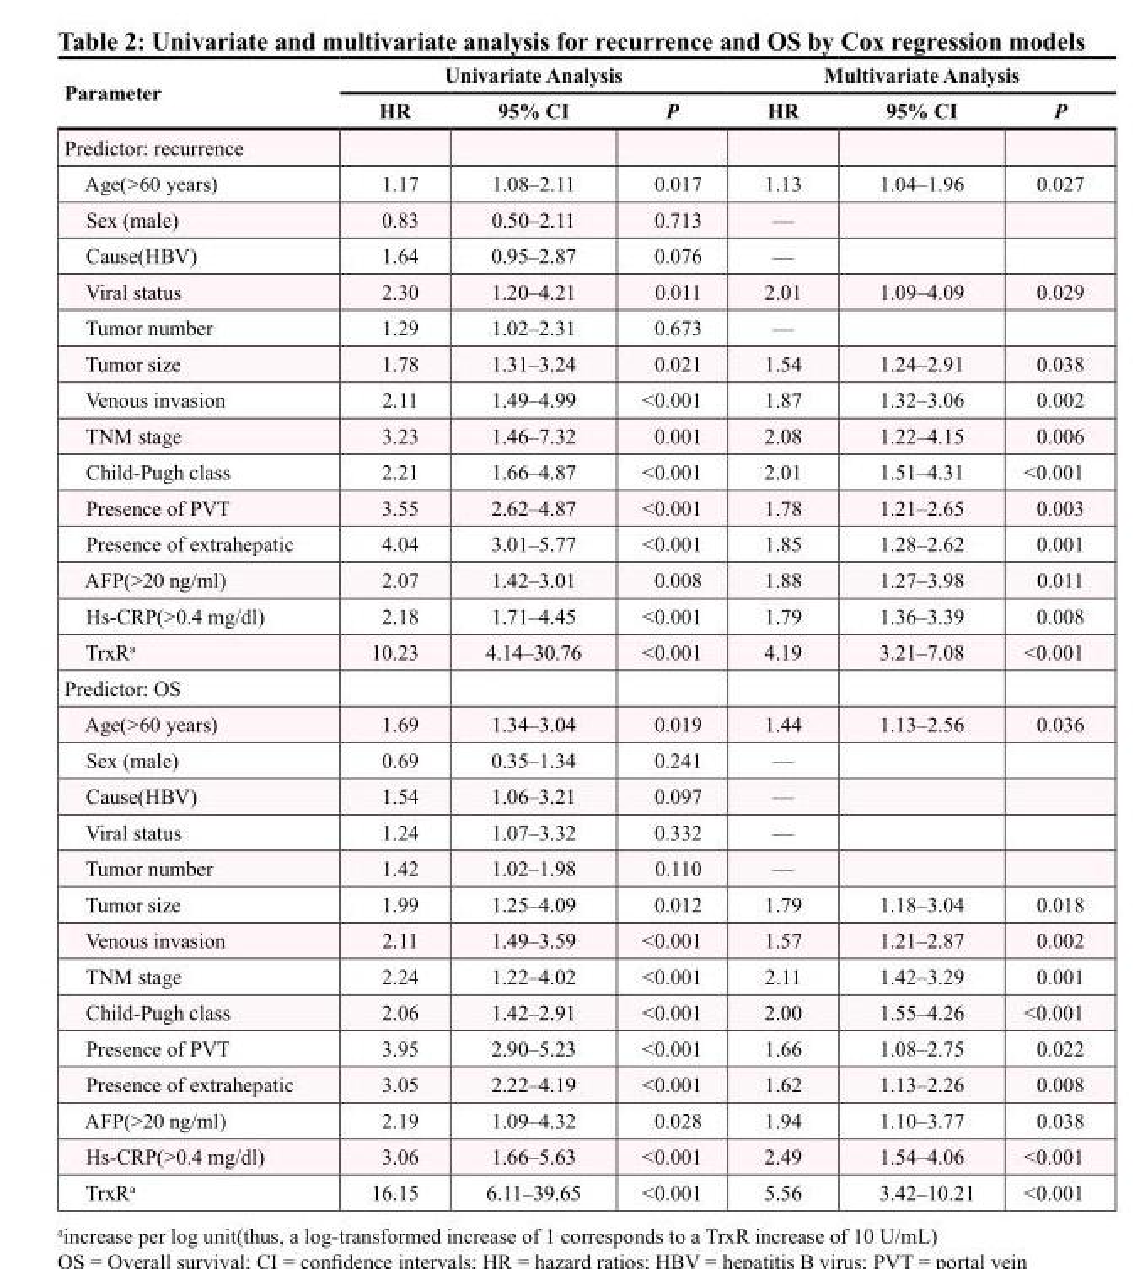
<table><thead><tr><td rowspan="2">Parameter</td><td colspan="3">Univariate Analysis</td><td colspan="3">Multivariate Analysis</td></tr><tr><td>HR</td><td>95% CI</td><td>P</td><td>HR</td><td>95% CI</td><td>P</td></tr></thead><tbody><tr><td colspan="7">Predictor: recurrence</td></tr><tr><td>Age(&gt;60 years)</td><td>1.17</td><td>1.08–2.11</td><td>0.017</td><td>1.13</td><td>1.04–1.96</td><td>0.027</td></tr><tr><td>Sex (male)</td><td>0.83</td><td>0.50–2.11</td><td>0.713</td><td>—</td><td></td><td></td></tr><tr><td>Cause(HBV)</td><td>1.64</td><td>0.95–2.87</td><td>0.076</td><td>—</td><td></td><td></td></tr><tr><td>Viral status</td><td>2.30</td><td>1.20–4.21</td><td>0.011</td><td>2.01</td><td>1.09–4.09</td><td>0.029</td></tr><tr><td>Tumor number</td><td>1.29</td><td>1.02–2.31</td><td>0.673</td><td>—</td><td></td><td></td></tr><tr><td>Tumor size</td><td>1.78</td><td>1.31–3.24</td><td>0.021</td><td>1.54</td><td>1.24–2.91</td><td>0.038</td></tr><tr><td>Venous invasion</td><td>2.11</td><td>1.49–4.99</td><td>&lt;0.001</td><td>1.87</td><td>1.32–3.06</td><td>0.002</td></tr><tr><td>TNM stage</td><td>3.23</td><td>1.46–7.32</td><td>0.001</td><td>2.08</td><td>1.22–4.15</td><td>0.006</td></tr><tr><td>Child-Pugh class</td><td>2.21</td><td>1.66–4.87</td><td>&lt;0.001</td><td>2.01</td><td>1.51–4.31</td><td>&lt;0.001</td></tr><tr><td>Presence of PVT</td><td>3.55</td><td>2.62–4.87</td><td>&lt;0.001</td><td>1.78</td><td>1.21–2.65</td><td>0.003</td></tr><tr><td>Presence of extrahepatic</td><td>4.04</td><td>3.01–5.77</td><td>&lt;0.001</td><td>1.85</td><td>1.28–2.62</td><td>0.001</td></tr><tr><td>AFP(&gt;20 ng/ml)</td><td>2.07</td><td>1.42–3.01</td><td>0.008</td><td>1.88</td><td>1.27–3.98</td><td>0.011</td></tr><tr><td>Hs-CRP(&gt;0.4 mg/dl)</td><td>2.18</td><td>1.71–4.45</td><td>&lt;0.001</td><td>1.79</td><td>1.36–3.39</td><td>0.008</td></tr><tr><td>TrxR<sup>a</sup></td><td>10.23</td><td>4.14–30.76</td><td>&lt;0.001</td><td>4.19</td><td>3.21–7.08</td><td>&lt;0.001</td></tr><tr><td colspan="7">Predictor: OS</td></tr><tr><td>Age(&gt;60 years)</td><td>1.69</td><td>1.34–3.04</td><td>0.019</td><td>1.44</td><td>1.13–2.56</td><td>0.036</td></tr><tr><td>Sex (male)</td><td>0.69</td><td>0.35–1.34</td><td>0.241</td><td>—</td><td></td><td></td></tr><tr><td>Cause(HBV)</td><td>1.54</td><td>1.06–3.21</td><td>0.097</td><td>—</td><td></td><td></td></tr><tr><td>Viral status</td><td>1.24</td><td>1.07–3.32</td><td>0.332</td><td>—</td><td></td><td></td></tr><tr><td>Tumor number</td><td>1.42</td><td>1.02–1.98</td><td>0.110</td><td>—</td><td></td><td></td></tr><tr><td>Tumor size</td><td>1.99</td><td>1.25–4.09</td><td>0.012</td><td>1.79</td><td>1.18–3.04</td><td>0.018</td></tr><tr><td>Venous invasion</td><td>2.11</td><td>1.49–3.59</td><td>&lt;0.001</td><td>1.57</td><td>1.21–2.87</td><td>0.002</td></tr><tr><td>TNM stage</td><td>2.24</td><td>1.22–4.02</td><td>&lt;0.001</td><td>2.11</td><td>1.42–3.29</td><td>0.001</td></tr><tr><td>Child-Pugh class</td><td>2.06</td><td>1.42–2.91</td><td>&lt;0.001</td><td>2.00</td><td>1.55–4.26</td><td>&lt;0.001</td></tr><tr><td>Presence of PVT</td><td>3.95</td><td>2.90–5.23</td><td>&lt;0.001</td><td>1.66</td><td>1.08–2.75</td><td>0.022</td></tr><tr><td>Presence of extrahepatic</td><td>3.05</td><td>2.22–4.19</td><td>&lt;0.001</td><td>1.62</td><td>1.13–2.26</td><td>0.008</td></tr><tr><td>AFP(&gt;20 ng/ml)</td><td>2.19</td><td>1.09–4.32</td><td>0.028</td><td>1.94</td><td>1.10–3.77</td><td>0.038</td></tr><tr><td>Hs-CRP(&gt;0.4 mg/dl)</td><td>3.06</td><td>1.66–5.63</td><td>&lt;0.001</td><td>2.49</td><td>1.54–4.06</td><td>&lt;0.001</td></tr><tr><td>TrxR<sup>a</sup></td><td>16.15</td><td>6.11–39.65</td><td>&lt;0.001</td><td>5.56</td><td>3.42–10.21</td><td>&lt;0.001</td></tr></tbody></table>